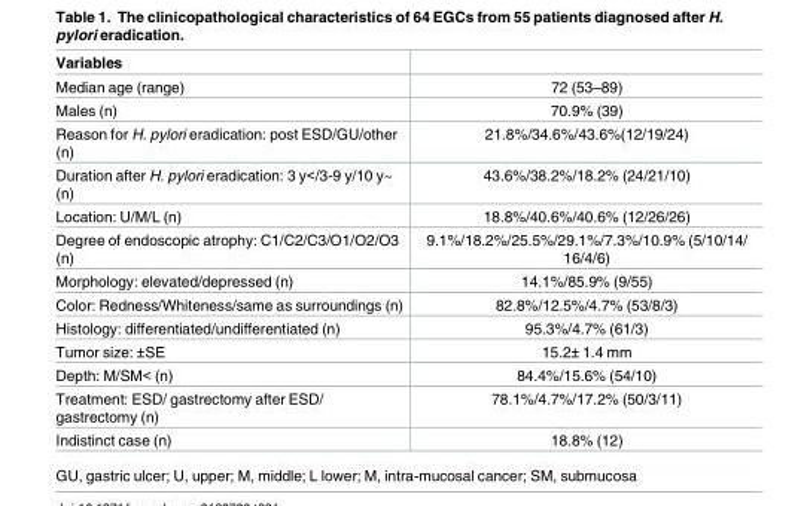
<table><thead><tr><td>Variables</td><td></td></tr></thead><tbody><tr><td>Median age (range)</td><td>72 (53–89)</td></tr><tr><td>Males (n)</td><td>70.9% (39)</td></tr><tr><td>Reason for H. pylori eradication: post ESD/GU/other (n)</td><td>21.8%/34.6%/43.6%(12/19/24)</td></tr><tr><td>Duration after H. pylori eradication: 3 y&lt;/3-9 y/10 y~ (n)</td><td>43.6%/38.2%/18.2% (24/21/10)</td></tr><tr><td>Location: U/M/L (n)</td><td>18.8%/40.6%/40.6% (12/26/26)</td></tr><tr><td>Degree of endoscopic atrophy: C1/C2/C3/O1/O2/O3 (n)</td><td>9.1%/18.2%/25.5%/29.1%/7.3%/10.9% (5/10/14/ 16/4/6)</td></tr><tr><td>Morphology: elevated/depressed (n)</td><td>14.1%/85.9% (9/55)</td></tr><tr><td>Color: Redness/Whiteness/same as surroundings (n)</td><td>82.8%/12.5%/4.7% (53/8/3)</td></tr><tr><td>Histology: differentiated/undifferentiated (n)</td><td>95.3%/4.7% (61/3)</td></tr><tr><td>Tumor size: ±SE</td><td>15.2± 1.4 mm</td></tr><tr><td>Depth: M/SM&lt; (n)</td><td>84.4%/15.6% (54/10)</td></tr><tr><td>Treatment: ESD/ gastrectomy after ESD/ gastrectomy (n)</td><td>78.1%/4.7%/17.2% (50/3/11)</td></tr><tr><td>Indistinct case (n)</td><td>18.8% (12)</td></tr></tbody></table>